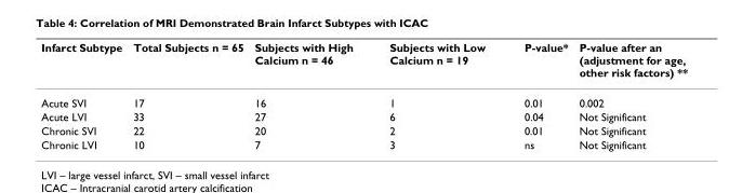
<table><thead><tr><td>Infarct Subtype</td><td>Total Subjects n = 65</td><td>Subjects with High Calcium n = 46</td><td>Subjects with Low Calcium n = 19</td><td>P-value*</td><td>P-value after an (adjustment for age, other risk factors) **</td></tr></thead><tbody><tr><td>Acute SVI</td><td>17</td><td>16</td><td>1</td><td>0.01</td><td>0.002</td></tr><tr><td>Acute LVI</td><td>33</td><td>27</td><td>6</td><td>0.04</td><td>Not Significant</td></tr><tr><td>Chronic SVI</td><td>22</td><td>20</td><td>2</td><td>0.01</td><td>Not Significant</td></tr><tr><td>Chronic LVI</td><td>10</td><td>7</td><td>3</td><td>ns</td><td>Not Significant</td></tr></tbody></table>